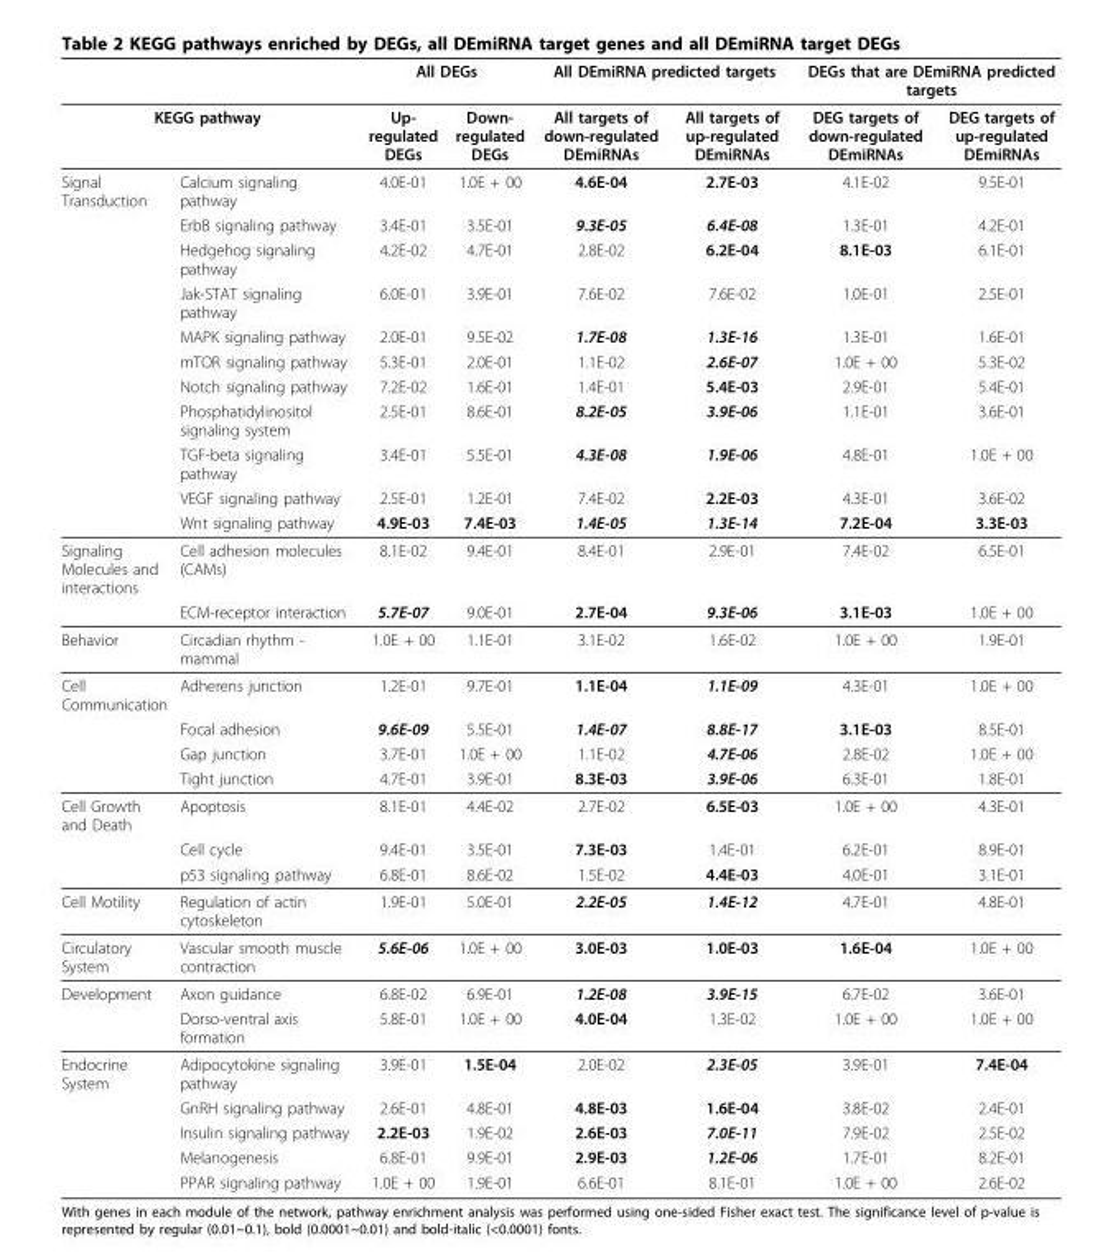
<table><thead><tr><td></td><td></td><td colspan="2">All DEGs</td><td colspan="2">All DEmiRNA predicted targets</td><td colspan="2">DEGs that are DEmiRNA predicted targets</td></tr><tr><td colspan="2">KEGG pathway</td><td>Up- regulated DEGs</td><td>Down- regulated DEGs</td><td>All targets of down-regulated DEmiRNAs</td><td>All targets of up-regulated DEmiRNAs</td><td>DEG targets of down-regulated DEmiRNAs</td><td>DEG targets of up-regulated DEmiRNAs</td></tr></thead><tbody><tr><td rowspan="11">Signal Transduction</td><td>Calcium signaling pathway</td><td>4.0E-01</td><td>1.0E + 00</td><td>4.6E-04</td><td>2.7E-03</td><td>4.1E-02</td><td>9.5E-01</td></tr><tr><td>ErbB signaling pathway</td><td>3.4E-01</td><td>3.5E-01</td><td>9.3E-05</td><td>6.4E-08</td><td>1.3E-01</td><td>4.2E-01</td></tr><tr><td>Hedgehog signaling pathway</td><td>4.2E-02</td><td>4.7E-01</td><td>2.8E-02</td><td>6.2E-04</td><td>8.1E-03</td><td>6.1E-01</td></tr><tr><td>Jak-STAT signaling pathway</td><td>6.0E-01</td><td>3.9E-01</td><td>7.6E-02</td><td>7.6E-02</td><td>1.0E-01</td><td>2.5E-01</td></tr><tr><td>MAPK signaling pathway</td><td>2.0E-01</td><td>9.5E-02</td><td>1.7E-08</td><td>1.3E-16</td><td>1.3E-01</td><td>1.6E-01</td></tr><tr><td>mTOR signaling pathway</td><td>5.3E-01</td><td>2.0E-01</td><td>1.1E-02</td><td>2.6E-07</td><td>1.0E + 00</td><td>5.3E-02</td></tr><tr><td>Notch signaling pathway</td><td>7.2E-02</td><td>1.6E-01</td><td>1.4E-01</td><td>5.4E-03</td><td>2.9E-01</td><td>5.4E-01</td></tr><tr><td>Phosphatidylinositol signaling system</td><td>2.5E-01</td><td>8.6E-01</td><td>8.2E-05</td><td>3.9E-06</td><td>1.1E-01</td><td>3.6E-01</td></tr><tr><td>TGF-beta signaling pathway</td><td>3.4E-01</td><td>5.5E-01</td><td>4.3E-08</td><td>1.9E-06</td><td>4.8E-01</td><td>1.0E + 00</td></tr><tr><td>VEGF signaling pathway</td><td>2.5E-01</td><td>1.2E-01</td><td>7.4E-02</td><td>2.2E-03</td><td>4.3E-01</td><td>3.6E-02</td></tr><tr><td>Wnt signaling pathway</td><td>4.9E-03</td><td>7.4E-03</td><td>1.4E-05</td><td>1.3E-14</td><td>7.2E-04</td><td>3.3E-03</td></tr><tr><td rowspan="2">Signaling Molecules and interactions</td><td>Cell adhesion molecules (CAMs)</td><td>8.1E-02</td><td>9.4E-01</td><td>8.4E-01</td><td>2.9E-01</td><td>7.4E-02</td><td>6.5E-01</td></tr><tr><td>ECM-receptor interaction</td><td>5.7E-07</td><td>9.0E-01</td><td>2.7E-04</td><td>9.3E-06</td><td>3.1E-03</td><td>1.0E + 00</td></tr><tr><td>Behavior</td><td>Circadian rhythm - mammal</td><td>1.0E + 00</td><td>1.1E-01</td><td>3.1E-02</td><td>1.6E-02</td><td>1.0E + 00</td><td>1.9E-01</td></tr><tr><td rowspan="4">Cell Communication</td><td>Adherens junction</td><td>1.2E-01</td><td>9.7E-01</td><td>1.1E-04</td><td>1.1E-09</td><td>4.3E-01</td><td>1.0E + 00</td></tr><tr><td>Focal adhesion</td><td>9.6E-09</td><td>5.5E-01</td><td>1.4E-07</td><td>8.8E-17</td><td>3.1E-03</td><td>8.5E-01</td></tr><tr><td>Gap junction</td><td>3.7E-01</td><td>1.0E + 00</td><td>1.1E-02</td><td>4.7E-06</td><td>2.8E-02</td><td>1.0E + 00</td></tr><tr><td>Tight junction</td><td>4.7E-01</td><td>3.9E-01</td><td>8.3E-03</td><td>3.9E-06</td><td>6.3E-01</td><td>1.8E-01</td></tr><tr><td rowspan="3">Cell Growth and Death</td><td>Apoptosis</td><td>8.1E-01</td><td>4.4E-02</td><td>2.7E-02</td><td>6.5E-03</td><td>1.0E + 00</td><td>4.3E-01</td></tr><tr><td>Cell cycle</td><td>9.4E-01</td><td>3.5E-01</td><td>7.3E-03</td><td>1.4E-01</td><td>6.2E-01</td><td>8.9E-01</td></tr><tr><td>p53 signaling pathway</td><td>6.8E-01</td><td>8.6E-02</td><td>1.5E-02</td><td>4.4E-03</td><td>4.0E-01</td><td>3.1E-01</td></tr><tr><td>Cell Motility</td><td>Regulation of actin cytoskeleton</td><td>1.9E-01</td><td>5.0E-01</td><td>2.2E-05</td><td>1.4E-12</td><td>4.7E-01</td><td>4.8E-01</td></tr><tr><td>Circulatory System</td><td>Vascular smooth muscle contraction</td><td>5.6E-06</td><td>1.0E + 00</td><td>3.0E-03</td><td>1.0E-03</td><td>1.6E-04</td><td>1.0E + 00</td></tr><tr><td rowspan="2">Development</td><td>Axon guidance</td><td>6.8E-02</td><td>6.9E-01</td><td>1.2E-08</td><td>3.9E-15</td><td>6.7E-02</td><td>3.6E-01</td></tr><tr><td>Dorso-ventral axis formation</td><td>5.8E-01</td><td>1.0E + 00</td><td>4.0E-04</td><td>1.3E-02</td><td>1.0E + 00</td><td>1.0E + 00</td></tr><tr><td rowspan="5">Endocrine System</td><td>Adipocytokine signaling pathway</td><td>3.9E-01</td><td>1.5E-04</td><td>2.0E-02</td><td>2.3E-05</td><td>3.9E-01</td><td>7.4E-04</td></tr><tr><td>GnRH signaling pathway</td><td>2.6E-01</td><td>4.8E-01</td><td>4.8E-03</td><td>1.6E-04</td><td>3.8E-02</td><td>2.4E-01</td></tr><tr><td>Insulin signaling pathway</td><td>2.2E-03</td><td>1.9E-02</td><td>2.6E-03</td><td>7.0E-11</td><td>7.9E-02</td><td>2.5E-02</td></tr><tr><td>Melanogenesis</td><td>6.8E-01</td><td>9.9E-01</td><td>2.9E-03</td><td>1.2E-06</td><td>1.7E-01</td><td>8.2E-01</td></tr><tr><td>PPAR signaling pathway</td><td>1.0E + 00</td><td>1.9E-01</td><td>6.6E-01</td><td>8.1E-01</td><td>1.0E + 00</td><td>2.6E-02</td></tr></tbody></table>